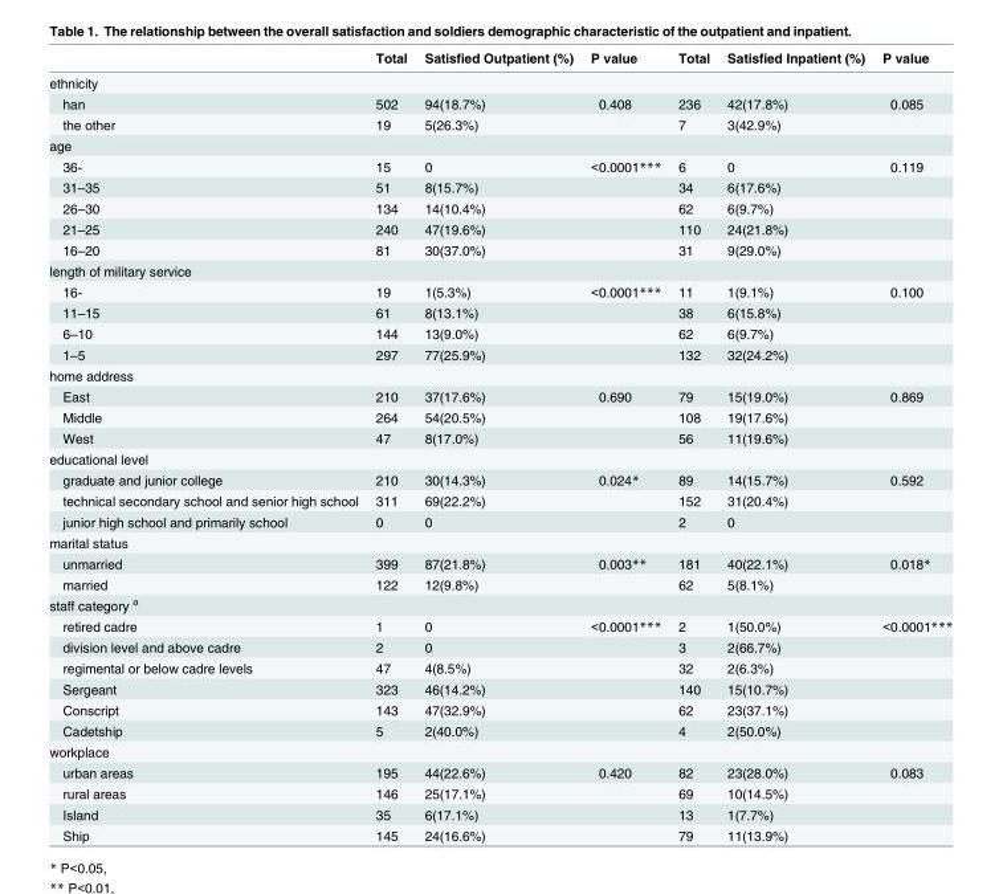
<table><thead><tr><td></td><td>Total</td><td>Satisfied Outpatient (%)</td><td>P value</td><td>Total</td><td>Satisfied Inpatient (%)</td><td>P value</td></tr></thead><tbody><tr><td colspan="7">ethnicity</td></tr><tr><td>han</td><td>502</td><td>94(18.7%)</td><td>0.408</td><td>236</td><td>42(17.8%)</td><td>0.085</td></tr><tr><td>the other</td><td>19</td><td>5(26.3%)</td><td></td><td>7</td><td>3(42.9%)</td><td></td></tr><tr><td colspan="7">age</td></tr><tr><td>36-</td><td>15</td><td>0</td><td>&lt;0.0001***</td><td>6</td><td>0</td><td>0.119</td></tr><tr><td>31–35</td><td>51</td><td>8(15.7%)</td><td></td><td>34</td><td>6(17.6%)</td><td></td></tr><tr><td>26–30</td><td>134</td><td>14(10.4%)</td><td></td><td>62</td><td>6(9.7%)</td><td></td></tr><tr><td>21–25</td><td>240</td><td>47(19.6%)</td><td></td><td>110</td><td>24(21.8%)</td><td></td></tr><tr><td>16–20</td><td>81</td><td>30(37.0%)</td><td></td><td>31</td><td>9(29.0%)</td><td></td></tr><tr><td colspan="7">length of military service</td></tr><tr><td>16-</td><td>19</td><td>1(5.3%)</td><td>&lt;0.0001***</td><td>11</td><td>1(9.1%)</td><td>0.100</td></tr><tr><td>11–15</td><td>61</td><td>8(13.1%)</td><td></td><td>38</td><td>6(15.8%)</td><td></td></tr><tr><td>6–10</td><td>144</td><td>13(9.0%)</td><td></td><td>62</td><td>6(9.7%)</td><td></td></tr><tr><td>1–5</td><td>297</td><td>77(25.9%)</td><td></td><td>132</td><td>32(24.2%)</td><td></td></tr><tr><td colspan="7">home address</td></tr><tr><td>East</td><td>210</td><td>37(17.6%)</td><td>0.690</td><td>79</td><td>15(19.0%)</td><td>0.869</td></tr><tr><td>Middle</td><td>264</td><td>54(20.5%)</td><td></td><td>108</td><td>19(17.6%)</td><td></td></tr><tr><td>West</td><td>47</td><td>8(17.0%)</td><td></td><td>56</td><td>11(19.6%)</td><td></td></tr><tr><td colspan="7">educational level</td></tr><tr><td>graduate and junior college</td><td>210</td><td>30(14.3%)</td><td>0.024*</td><td>89</td><td>14(15.7%)</td><td>0.592</td></tr><tr><td>technical secondary school and senior high school</td><td>311</td><td>69(22.2%)</td><td></td><td>152</td><td>31(20.4%)</td><td></td></tr><tr><td>junior high school and primarily school</td><td>0</td><td>0</td><td></td><td>2</td><td>0</td><td></td></tr><tr><td colspan="7">marital status</td></tr><tr><td>unmarried</td><td>399</td><td>87(21.8%)</td><td>0.003**</td><td>181</td><td>40(22.1%)</td><td>0.018*</td></tr><tr><td>married</td><td>122</td><td>12(9.8%)</td><td></td><td>62</td><td>5(8.1%)</td><td></td></tr><tr><td colspan="7">staff category <sup>a</sup></td></tr><tr><td>retired cadre</td><td>1</td><td>0</td><td>&lt;0.0001***</td><td>2</td><td>1(50.0%)</td><td>&lt;0.0001***</td></tr><tr><td>division level and above cadre</td><td>2</td><td>0</td><td></td><td>3</td><td>2(66.7%)</td><td></td></tr><tr><td>regimental or below cadre levels</td><td>47</td><td>4(8.5%)</td><td></td><td>32</td><td>2(6.3%)</td><td></td></tr><tr><td>Sergeant</td><td>323</td><td>46(14.2%)</td><td></td><td>140</td><td>15(10.7%)</td><td></td></tr><tr><td>Conscript</td><td>143</td><td>47(32.9%)</td><td></td><td>62</td><td>23(37.1%)</td><td></td></tr><tr><td>Cadetship</td><td>5</td><td>2(40.0%)</td><td></td><td>4</td><td>2(50.0%)</td><td></td></tr><tr><td colspan="7">workplace</td></tr><tr><td>urban areas</td><td>195</td><td>44(22.6%)</td><td>0.420</td><td>82</td><td>23(28.0%)</td><td>0.083</td></tr><tr><td>rural areas</td><td>146</td><td>25(17.1%)</td><td></td><td>69</td><td>10(14.5%)</td><td></td></tr><tr><td>Island</td><td>35</td><td>6(17.1%)</td><td></td><td>13</td><td>1(7.7%)</td><td></td></tr><tr><td>Ship</td><td>145</td><td>24(16.6%)</td><td></td><td>79</td><td>11(13.9%)</td><td></td></tr></tbody></table>